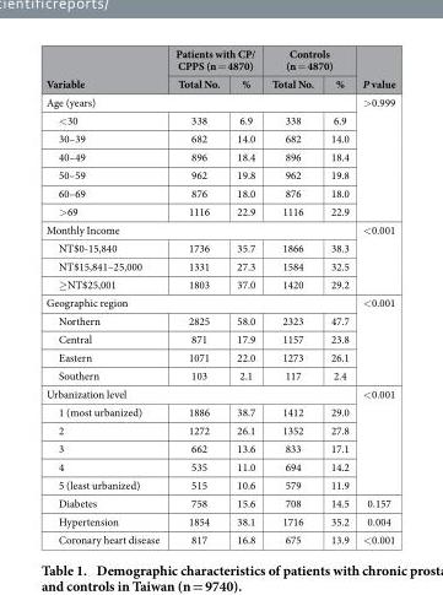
<table><thead><tr><td rowspan="2">Variable</td><td colspan="2">Patients with CP/ CPPS (n = 4870)</td><td colspan="2">Controls (n = 4870)</td><td rowspan="2">P value</td></tr><tr><td>Total No.</td><td>%</td><td>Total No.</td><td>%</td></tr></thead><tbody><tr><td colspan="5">Age (years)</td><td rowspan="7">&gt;0.999</td></tr><tr><td>&lt; 30</td><td>338</td><td>6.9</td><td>338</td><td>6.9</td></tr><tr><td>30–39</td><td>682</td><td>14.0</td><td>682</td><td>14.0</td></tr><tr><td>40–49</td><td>896</td><td>18.4</td><td>896</td><td>18.4</td></tr><tr><td>50–59</td><td>962</td><td>19.8</td><td>962</td><td>19.8</td></tr><tr><td>60–69</td><td>876</td><td>18.0</td><td>876</td><td>18.0</td></tr><tr><td>&gt; 69</td><td>1116</td><td>22.9</td><td>1116</td><td>22.9</td></tr><tr><td colspan="5">Monthly Income</td><td rowspan="4">&lt;0.001</td></tr><tr><td>NT$0-15,840</td><td>1736</td><td>35.7</td><td>1866</td><td>38.3</td></tr><tr><td>NT$15,841–25,000</td><td>1331</td><td>27.3</td><td>1584</td><td>32.5</td></tr><tr><td>≥ NT$25,001</td><td>1803</td><td>37.0</td><td>1420</td><td>29.2</td></tr><tr><td colspan="5">Geographic region</td><td rowspan="5">&lt;0.001</td></tr><tr><td>Northern</td><td>2825</td><td>58.0</td><td>2323</td><td>47.7</td></tr><tr><td>Central</td><td>871</td><td>17.9</td><td>1157</td><td>23.8</td></tr><tr><td>Eastern</td><td>1071</td><td>22.0</td><td>1273</td><td>26.1</td></tr><tr><td>Southern</td><td>103</td><td>2.1</td><td>117</td><td>2.4</td></tr><tr><td colspan="5">Urbanization level</td><td rowspan="6">&lt;0.001</td></tr><tr><td>1 (most urbanized)</td><td>1886</td><td>38.7</td><td>1412</td><td>29.0</td></tr><tr><td>2</td><td>1272</td><td>26.1</td><td>1352</td><td>27.8</td></tr><tr><td>3</td><td>662</td><td>13.6</td><td>833</td><td>17.1</td></tr><tr><td>4</td><td>535</td><td>11.0</td><td>694</td><td>14.2</td></tr><tr><td>5 (least urbanized)</td><td>515</td><td>10.6</td><td>579</td><td>11.9</td></tr><tr><td>Diabetes</td><td>758</td><td>15.6</td><td>708</td><td>14.5</td><td>0.157</td></tr><tr><td>Hypertension</td><td>1854</td><td>38.1</td><td>1716</td><td>35.2</td><td>0.004</td></tr><tr><td>Coronary heart disease</td><td>817</td><td>16.8</td><td>675</td><td>13.9</td><td>&lt;0.001</td></tr></tbody></table>